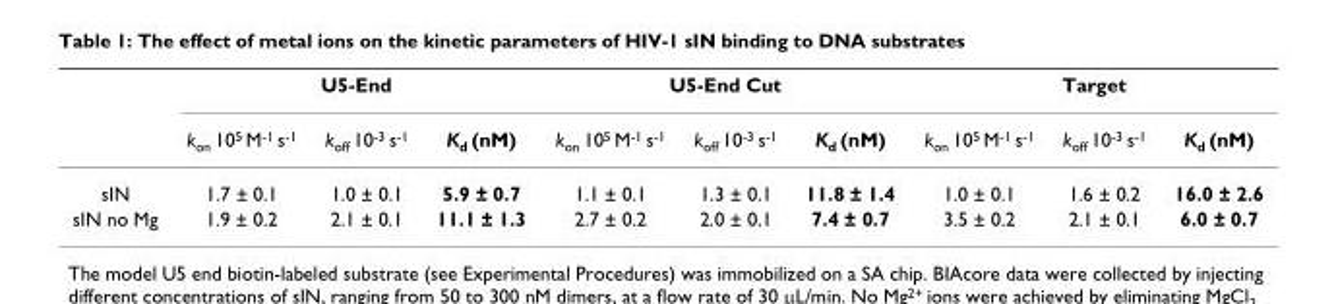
<table><thead><tr><td rowspan="2"></td><td colspan="3">U5-End</td><td colspan="3">U5-End Cut</td><td colspan="3">Target</td></tr><tr><td>k<sub>on</sub> 10<sup>5</sup> M<sup>-1</sup> s<sup>-1</sup></td><td>k<sub>off</sub> 10<sup>-3</sup> s<sup>-1</sup></td><td>K<sub>d</sub> (nM)</td><td>k<sub>on</sub> 10<sup>5</sup> M<sup>-1</sup> s<sup>-1</sup></td><td>k<sub>off</sub> 10<sup>-3</sup> s<sup>-1</sup></td><td>K<sub>d</sub> (nM)</td><td>k<sub>on</sub> 10<sup>5</sup> M<sup>-1</sup> s<sup>-1</sup></td><td>k<sub>off</sub> 10<sup>-3</sup> s<sup>-1</sup></td><td>K<sub>d</sub> (nM)</td></tr></thead><tbody><tr><td>sIN</td><td>1.7 ± 0.1</td><td>1.0 ± 0.1</td><td>5.9 ± 0.7</td><td>1.1 ± 0.1</td><td>1.3 ± 0.1</td><td>11.8 ± 1.4</td><td>1.0 ± 0.1</td><td>1.6 ± 0.2</td><td>16.0 ± 2.6</td></tr><tr><td>sIN no Mg</td><td>1.9 ± 0.2</td><td>2.1 ± 0.1</td><td>11.1 ± 1.3</td><td>2.7 ± 0.2</td><td>2.0 ± 0.1</td><td>7.4 ± 0.7</td><td>3.5 ± 0.2</td><td>2.1 ± 0.1</td><td>6.0 ± 0.7</td></tr></tbody></table>